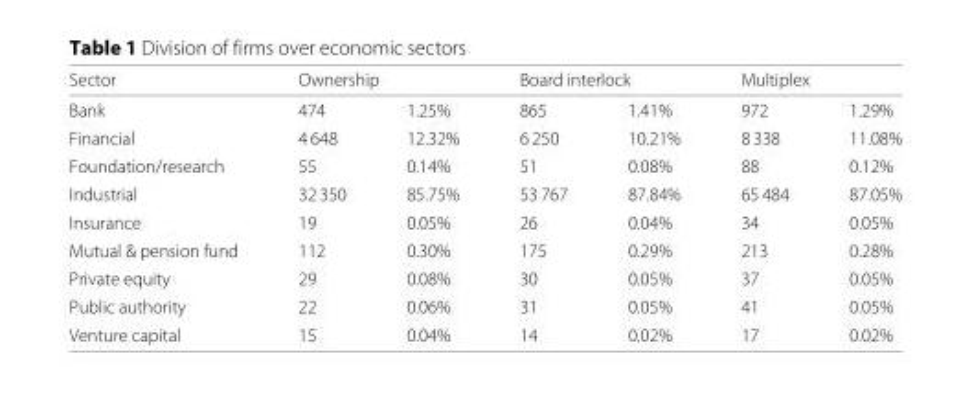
<table><thead><tr><td rowspan="2">Sector Bank</td><td colspan="2">Ownership</td><td colspan="2">Board interlock</td><td colspan="2">Multiplex</td></tr><tr><td>474</td><td>1.25%</td><td>865</td><td>1.41%</td><td>972</td><td>1.29%</td></tr></thead><tbody><tr><td>Financial</td><td>4 648</td><td>12.32%</td><td>6 250</td><td>10.21%</td><td>8 338</td><td>11.08%</td></tr><tr><td>Foundation/research</td><td>55</td><td>0.14%</td><td>51</td><td>0.08%</td><td>88</td><td>0.12%</td></tr><tr><td>Industrial</td><td>32 350</td><td>85.75%</td><td>53 767</td><td>87.84%</td><td>65 484</td><td>87.05%</td></tr><tr><td>Insurance</td><td>19</td><td>0.05%</td><td>26</td><td>0.04%</td><td>34</td><td>0.05%</td></tr><tr><td>Mutual &amp; pension fund</td><td>112</td><td>0.30%</td><td>175</td><td>0.29%</td><td>213</td><td>0.28%</td></tr><tr><td>Private equity</td><td>29</td><td>0.08%</td><td>30</td><td>0.05%</td><td>37</td><td>0.05%</td></tr><tr><td>Public authority</td><td>22</td><td>0.06%</td><td>31</td><td>0.05%</td><td>41</td><td>0.05%</td></tr><tr><td>Venture capital</td><td>15</td><td>0.04%</td><td>14</td><td>0.02%</td><td>17</td><td>0.02%</td></tr></tbody></table>